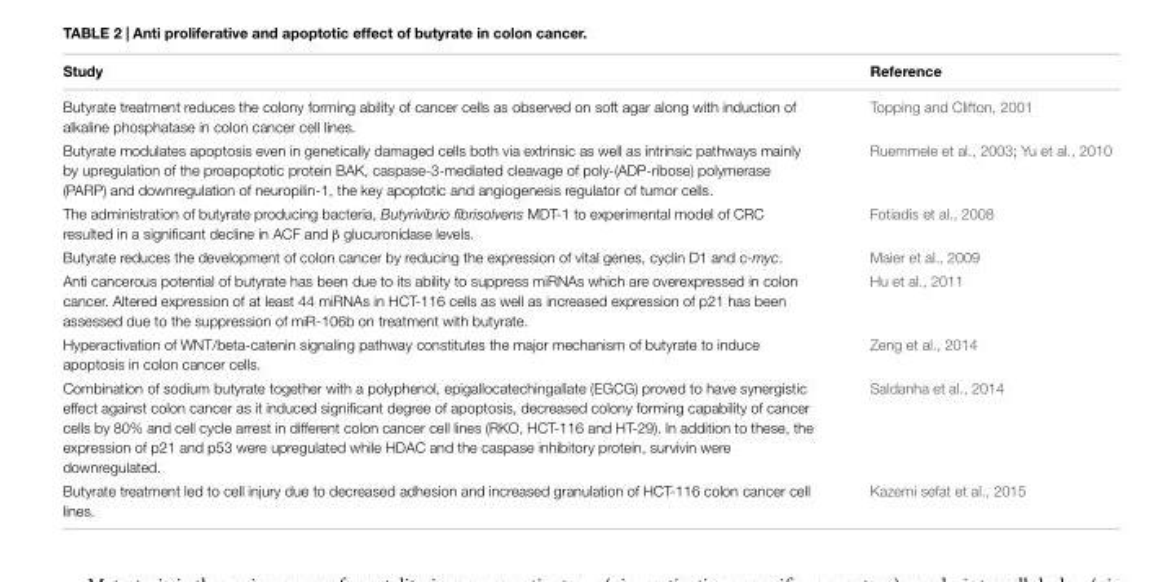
<table><thead><tr><td>Study</td><td>Reference</td></tr></thead><tbody><tr><td>Butyrate treatment reduces the colony forming ability of cancer cells as observed on soft agar along with induction of alkaline phosphatase in colon cancer cell lines.</td><td>Topping and Clifton, 2001</td></tr><tr><td>Butyrate modulates apoptosis even in genetically damaged cells both via extrinsic as well as intrinsic pathways mainly by upregulation of the proapoptotic protein BAK, caspase-3-mediated cleavage of poly-(ADP-ribose) polymerase (PARP) and downregulation of neuropilin-1, the key apoptotic and angiogenesis regulator of tumor cells.</td><td>Ruemmele et al., 2003; Yu et al., 2010</td></tr><tr><td>The administration of butyrate producing bacteria, Butyrivibrio fibrisolvens MDT-1 to experimental model of CRC resulted in a significant decline in ACF and β glucuronidase levels.</td><td>Fotiadis et al., 2008</td></tr><tr><td>Butyrate reduces the development of colon cancer by reducing the expression of vital genes, cyclin D1 and c-myc.</td><td>Maier et al., 2009</td></tr><tr><td>Anti cancerous potential of butyrate has been due to its ability to suppress miRNAs which are overexpressed in colon cancer. Altered expression of at least 44 miRNAs in HCT-116 cells as well as increased expression of p21 has been assessed due to the suppression of miR-106b on treatment with butyrate.</td><td>Hu et al., 2011</td></tr><tr><td>Hyperactivation of WNT/beta-catenin signaling pathway constitutes the major mechanism of butyrate to induce apoptosis in colon cancer cells.</td><td>Zeng et al., 2014</td></tr><tr><td>Combination of sodium butyrate together with a polyphenol, epigallocatechingallate (EGCG) proved to have synergistic effect against colon cancer as it induced significant degree of apoptosis, decreased colony forming capability of cancer cells by 80% and cell cycle arrest in different colon cancer cell lines (RKO, HCT-116 and HT-29). In addition to these, the expression of p21 and p53 were upregulated while HDAC and the caspase inhibitory protein, survivin were downregulated.</td><td>Saldanha et al., 2014</td></tr><tr><td>Butyrate treatment led to cell injury due to decreased adhesion and increased granulation of HCT-116 colon cancer cell lines.</td><td>Kazemi sefat et al., 2015</td></tr></tbody></table>